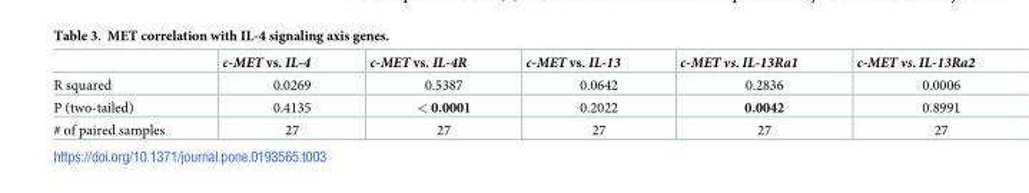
<table><thead><tr><td></td><td>c-MET vs. IL-4</td><td>c-MET vs. IL-4R</td><td>c-MET vs. IL-13</td><td>c-MET vs. IL-13Ra1</td><td>c-MET vs. IL-13Ra2</td></tr></thead><tbody><tr><td>R squared</td><td>0.0269</td><td>0.5387</td><td>0.0642</td><td>0.2836</td><td>0.0006</td></tr><tr><td>P (two-tailed)</td><td>0.4135</td><td>&lt; 0.0001</td><td>0.2022</td><td>0.0042</td><td>0.8991</td></tr><tr><td># of paired samples</td><td>27</td><td>27</td><td>27</td><td>27</td><td>27</td></tr></tbody></table>